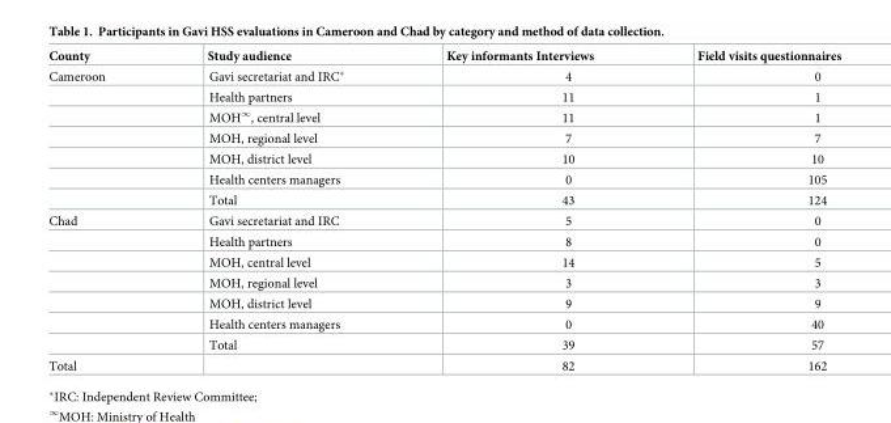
<table><thead><tr><td>County</td><td>Study audience</td><td>Key informants Interviews</td><td>Field visits questionnaires</td></tr></thead><tbody><tr><td rowspan="7">Cameroon</td><td>Gavi secretariat and IRC*</td><td>4</td><td>0</td></tr><tr><td>Health partners</td><td>11</td><td>1</td></tr><tr><td>MOH<sup>∞</sup>, central level</td><td>11</td><td>1</td></tr><tr><td>MOH, regional level</td><td>7</td><td>7</td></tr><tr><td>MOH, district level</td><td>10</td><td>10</td></tr><tr><td>Health centers managers</td><td>0</td><td>105</td></tr><tr><td>Total</td><td>43</td><td>124</td></tr><tr><td rowspan="7">Chad</td><td>Gavi secretariat and IRC</td><td>5</td><td>0</td></tr><tr><td>Health partners</td><td>8</td><td>0</td></tr><tr><td>MOH, central level</td><td>14</td><td>5</td></tr><tr><td>MOH, regional level</td><td>3</td><td>3</td></tr><tr><td>MOH, district level</td><td>9</td><td>9</td></tr><tr><td>Health centers managers</td><td>0</td><td>40</td></tr><tr><td>Total</td><td>39</td><td>57</td></tr><tr><td>Total</td><td></td><td>82</td><td>162</td></tr></tbody></table>